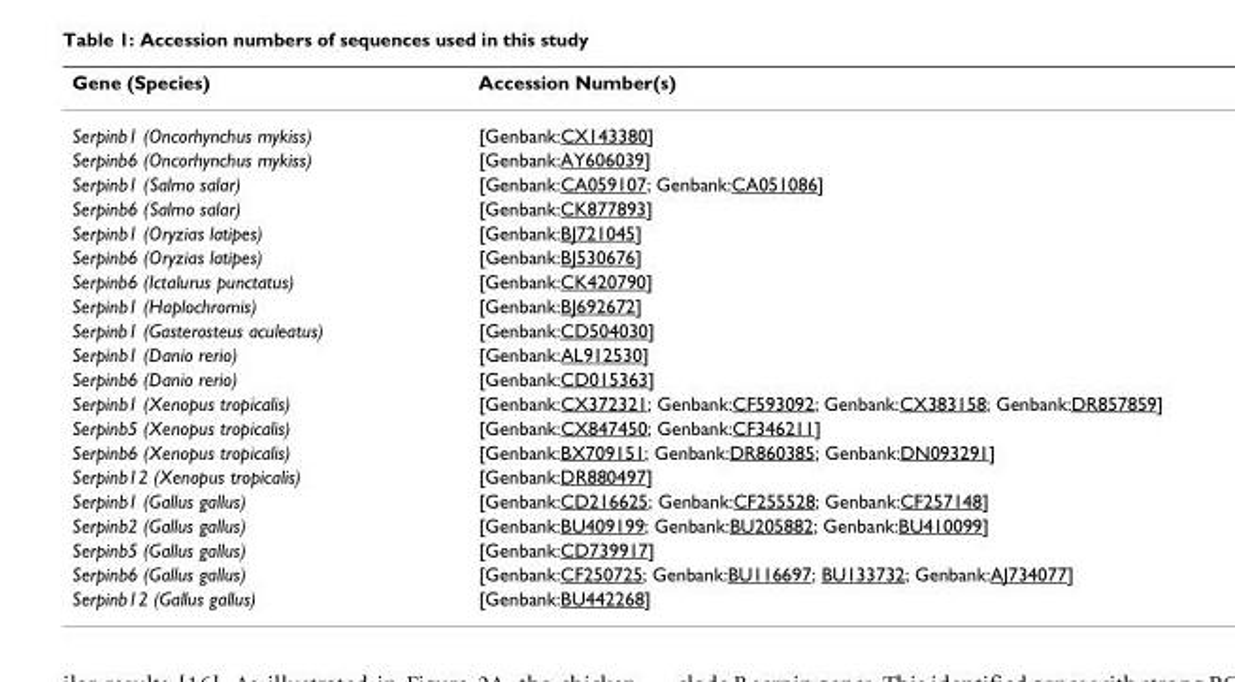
<table><thead><tr><td>Gene (Species)</td><td>Accession Number(s)</td></tr></thead><tbody><tr><td>Serpinb1 (Oncorhynchus mykiss)</td><td>[Genbank:CX143380]</td></tr><tr><td>Serpinb6 (Oncorhynchus mykiss)</td><td>[Genbank:AY606039]</td></tr><tr><td>Serpinb1 (Salmo salar)</td><td>[Genbank:CA059107; Genbank:CA051086]</td></tr><tr><td>Serpinb6 (Salmo salar)</td><td>[Genbank:CK877893]</td></tr><tr><td>Serpinb1 (Oryzias latipes)</td><td>[Genbank:BJ721045]</td></tr><tr><td>Serpinb6 (Oryzias latipes)</td><td>[Genbank:BJ530676]</td></tr><tr><td>Serpinb6 (Ictalurus punctatus)</td><td>[Genbank:CK420790]</td></tr><tr><td>Serpinb1 (Haplochromis)</td><td>[Genbank:BJ692672]</td></tr><tr><td>Serpinb1 (Gasterosteus aculeatus)</td><td>[Genbank:CD504030]</td></tr><tr><td>Serpinb1 (Danio rerio)</td><td>[Genbank:AL912530]</td></tr><tr><td>Serpinb6 (Danio rerio)</td><td>[Genbank:CD015363]</td></tr><tr><td>Serpinb1 (Xenopus tropicalis)</td><td>[Genbank:CX372321; Genbank:CF593092; Genbank:CX383158; Genbank:DR857859]</td></tr><tr><td>Serpinb5 (Xenopus tropicalis)</td><td>[Genbank:CX847450; Genbank:CF346211]</td></tr><tr><td>Serpinb6 (Xenopus tropicalis)</td><td>[Genbank:BX709151; Genbank:DR860385; Genbank:DN093291]</td></tr><tr><td>Serpinb12 (Xenopus tropicalis)</td><td>[Genbank:DR880497]</td></tr><tr><td>Serpinb1 (Gallus gallus)</td><td>[Genbank:CD216625; Genbank:CF255528; Genbank:CF257148]</td></tr><tr><td>Serpinb2 (Gallus gallus)</td><td>[Genbank:BU409199; Genbank:BU205882; Genbank:BU410099]</td></tr><tr><td>Serpinb5 (Gallus gallus)</td><td>[Genbank:CD739917]</td></tr><tr><td>Serpinb6 (Gallus gallus)</td><td>[Genbank:CF250725; Genbank:BU116697; BU133732; Genbank:AJ734077]</td></tr><tr><td>Serpinb12 (Gallus gallus)</td><td>[Genbank:BU442268]</td></tr></tbody></table>